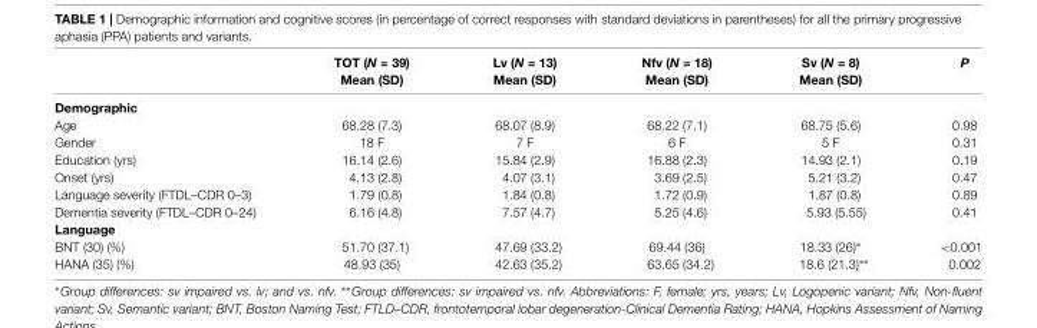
<table><thead><tr><td rowspan="2"></td><td rowspan="2">TOT (N = 39) Mean (SD)</td><td rowspan="2">Lv (N = 13) Mean (SD)</td><td rowspan="2">Nfv (N = 18) Mean (SD)</td><td rowspan="2">Sv (N = 8) Mean (SD)</td><td rowspan="2">P</td></tr><tr></tr></thead><tbody><tr><td colspan="6">Demographic</td></tr><tr><td>Age</td><td>68.28 (7.3)</td><td>68.07 (8.9)</td><td>68.22 (7.1)</td><td>68.75 (5.6)</td><td>0.98</td></tr><tr><td>Gender</td><td>18 F</td><td>7 F</td><td>6 F</td><td>5 F</td><td>0.31</td></tr><tr><td>Education (yrs)</td><td>16.14 (2.6)</td><td>15.84 (2.9)</td><td>16.88 (2.3)</td><td>14.93 (2.1)</td><td>0.19</td></tr><tr><td>Onset (yrs)</td><td>4.13 (2.8)</td><td>4.07 (3.1)</td><td>3.69 (2.5)</td><td>5.21 (3.2)</td><td>0.47</td></tr><tr><td>Language severity (FTDL–CDR 0–3)</td><td>1.79 (0.8)</td><td>1.84 (0.8)</td><td>1.72 (0.9)</td><td>1.87 (0.8)</td><td>0.89</td></tr><tr><td>Dementia severity (FTDL–CDR 0–24)</td><td>6.16 (4.8)</td><td>7.57 (4.7)</td><td>5.25 (4.6)</td><td>5.93 (5.55)</td><td>0.41</td></tr><tr><td colspan="6">Language</td></tr><tr><td>BNT (30) (%)</td><td>51.70 (37.1)</td><td>47.69 (33.2)</td><td>69.44 (36)</td><td>18.33 (26)∗</td><td>&lt;0.001</td></tr><tr><td>HANA (35) (%)</td><td>48.93 (35)</td><td>42.63 (35.2)</td><td>63.65 (34.2)</td><td>18.6 (21.3)∗∗</td><td>0.002</td></tr></tbody></table>